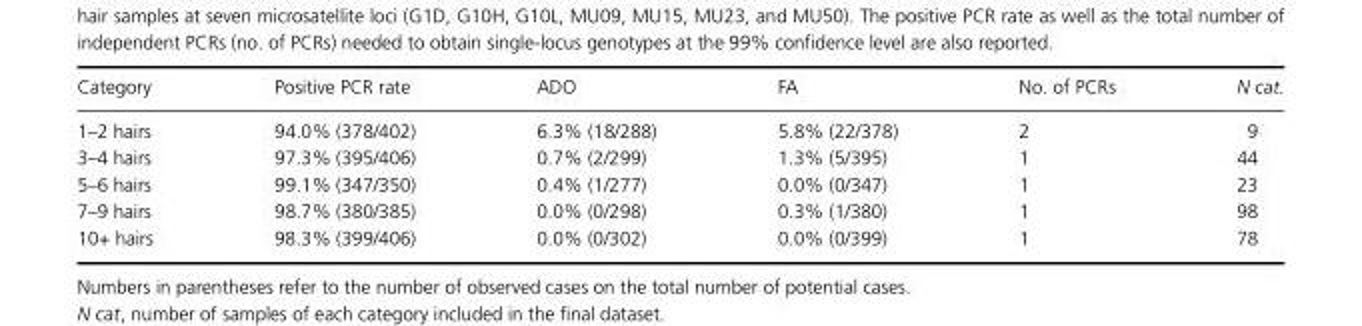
<table><thead><tr><td>Category</td><td>Positive PCR rate</td><td>ADO</td><td>FA</td><td>No. of PCRs</td><td>N cat.</td></tr></thead><tbody><tr><td>1–2 hairs</td><td>94.0% (378/402)</td><td>6.3% (18/288)</td><td>5.8% (22/378)</td><td>2</td><td>9</td></tr><tr><td>3–4 hairs</td><td>97.3% (395/406)</td><td>0.7% (2/299)</td><td>1.3% (5/395)</td><td>1</td><td>44</td></tr><tr><td>5–6 hairs</td><td>99.1% (347/350)</td><td>0.4% (1/277)</td><td>0.0% (0/347)</td><td>1</td><td>23</td></tr><tr><td>7–9 hairs</td><td>98.7% (380/385)</td><td>0.0% (0/298)</td><td>0.3% (1/380)</td><td>1</td><td>98</td></tr><tr><td>10+ hairs</td><td>98.3% (399/406)</td><td>0.0% (0/302)</td><td>0.0% (0/399)</td><td>1</td><td>78</td></tr></tbody></table>